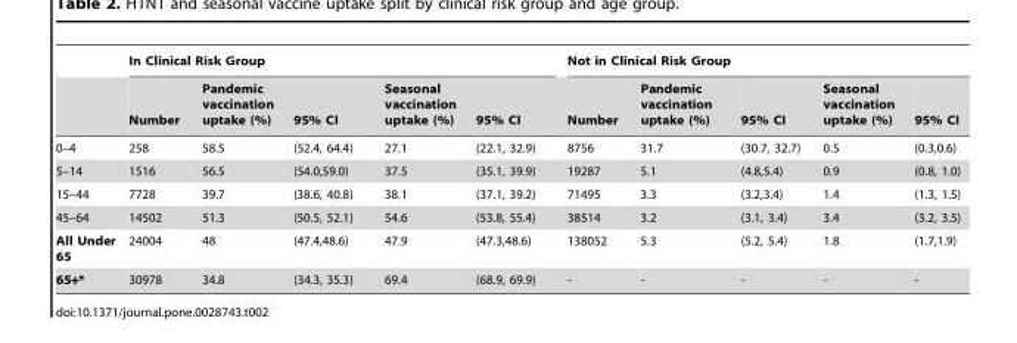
<table><thead><tr><td rowspan="2"></td><td colspan="5">In Clinical Risk Group</td><td colspan="5">Not in Clinical Risk Group</td></tr><tr><td>Number</td><td>Pandemic vaccination uptake (%)</td><td>95% CI</td><td>Seasonal vaccination uptake (%)</td><td>95% CI</td><td>Number</td><td>Pandemic vaccination uptake (%)</td><td>95% CI</td><td>Seasonal vaccination uptake (%)</td><td>95% CI</td></tr></thead><tbody><tr><td>0–4</td><td>258</td><td>58.5</td><td>(52.4, 64.4)</td><td>27.1</td><td>(22.1, 32.9)</td><td>8756</td><td>31.7</td><td>(30.7, 32.7)</td><td>0.5</td><td>(0.3,0.6)</td></tr><tr><td>5–14</td><td>1516</td><td>56.5</td><td>(54.0,59.0)</td><td>37.5</td><td>(35.1, 39.9)</td><td>19287</td><td>5.1</td><td>(4.8,5.4)</td><td>0.9</td><td>(0.8, 1.0)</td></tr><tr><td>15–44</td><td>7728</td><td>39.7</td><td>(38.6, 40.8)</td><td>38.1</td><td>(37.1, 39.2)</td><td>71495</td><td>3.3</td><td>(3.2,3.4)</td><td>1.4</td><td>(1.3, 1.5)</td></tr><tr><td>45–64</td><td>14502</td><td>51.3</td><td>(50.5, 52.1)</td><td>54.6</td><td>(53.8, 55.4)</td><td>38514</td><td>3.2</td><td>(3.1, 3.4)</td><td>3.4</td><td>(3.2, 3.5)</td></tr><tr><td>All Under 65</td><td>24004</td><td>48</td><td>(47.4,48.6)</td><td>47.9</td><td>(47.3,48.6)</td><td>138052</td><td>5.3</td><td>(5.2, 5.4)</td><td>1.8</td><td>(1.7,1.9)</td></tr><tr><td>65+*</td><td>30978</td><td>34.8</td><td>(34.3, 35.3)</td><td>69.4</td><td>(68.9, 69.9)</td><td>-</td><td>-</td><td>-</td><td>-</td><td>-</td></tr></tbody></table>